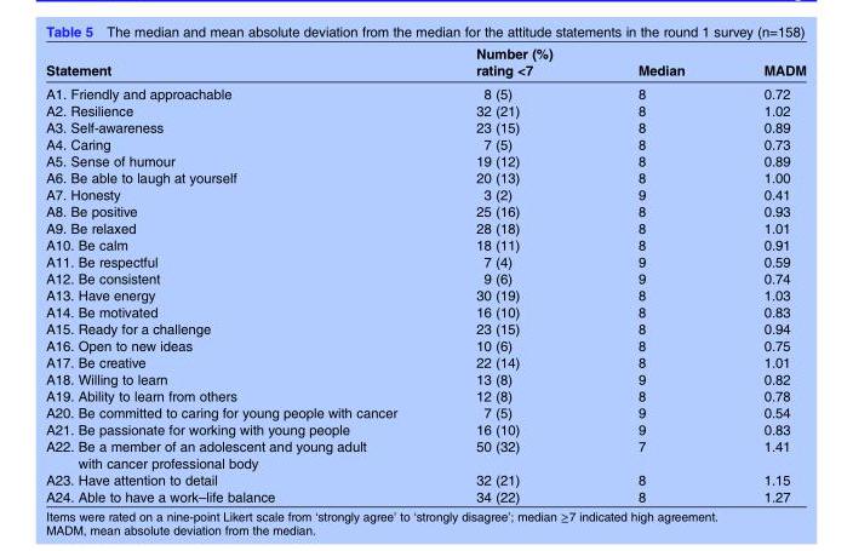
<table><thead><tr><td>Statement</td><td>Number (%) rating &lt;7</td><td>Median</td><td>MADM</td></tr></thead><tbody><tr><td>A1. Friendly and approachable</td><td>8 (5)</td><td>8</td><td>0.72</td></tr><tr><td>A2. Resilience</td><td>32 (21)</td><td>8</td><td>1.02</td></tr><tr><td>A3. Self-awareness</td><td>23 (15)</td><td>8</td><td>0.89</td></tr><tr><td>A4. Caring</td><td>7 (5)</td><td>8</td><td>0.73</td></tr><tr><td>A5. Sense of humour</td><td>19 (12)</td><td>8</td><td>0.89</td></tr><tr><td>A6. Be able to laugh at yourself</td><td>20 (13)</td><td>8</td><td>1.00</td></tr><tr><td>A7. Honesty</td><td>3 (2)</td><td>9</td><td>0.41</td></tr><tr><td>A8. Be positive</td><td>25 (16)</td><td>8</td><td>0.93</td></tr><tr><td>A9. Be relaxed</td><td>28 (18)</td><td>8</td><td>1.01</td></tr><tr><td>A10. Be calm</td><td>18 (11)</td><td>8</td><td>0.91</td></tr><tr><td>A11. Be respectful</td><td>7 (4)</td><td>9</td><td>0.59</td></tr><tr><td>A12. Be consistent</td><td>9 (6)</td><td>9</td><td>0.74</td></tr><tr><td>A13. Have energy</td><td>30 (19)</td><td>8</td><td>1.03</td></tr><tr><td>A14. Be motivated</td><td>16 (10)</td><td>8</td><td>0.83</td></tr><tr><td>A15. Ready for a challenge</td><td>23 (15)</td><td>8</td><td>0.94</td></tr><tr><td>A16. Open to new ideas</td><td>10 (6)</td><td>8</td><td>0.75</td></tr><tr><td>A17. Be creative</td><td>22 (14)</td><td>8</td><td>1.01</td></tr><tr><td>A18. Willing to learn</td><td>13 (8)</td><td>9</td><td>0.82</td></tr><tr><td>A19. Ability to learn from others</td><td>12 (8)</td><td>8</td><td>0.78</td></tr><tr><td>A20. Be committed to caring for young people with cancer</td><td>7 (5)</td><td>9</td><td>0.54</td></tr><tr><td>A21. Be passionate for working with young people</td><td>16 (10)</td><td>9</td><td>0.83</td></tr><tr><td>A22. Be a member of an adolescent and young adult with cancer professional body</td><td>50 (32)</td><td>7</td><td>1.41</td></tr><tr><td>A23. Have attention to detail</td><td>32 (21)</td><td>8</td><td>1.15</td></tr><tr><td>A24. Able to have a work–life balance</td><td>34 (22)</td><td>8</td><td>1.27</td></tr></tbody></table>